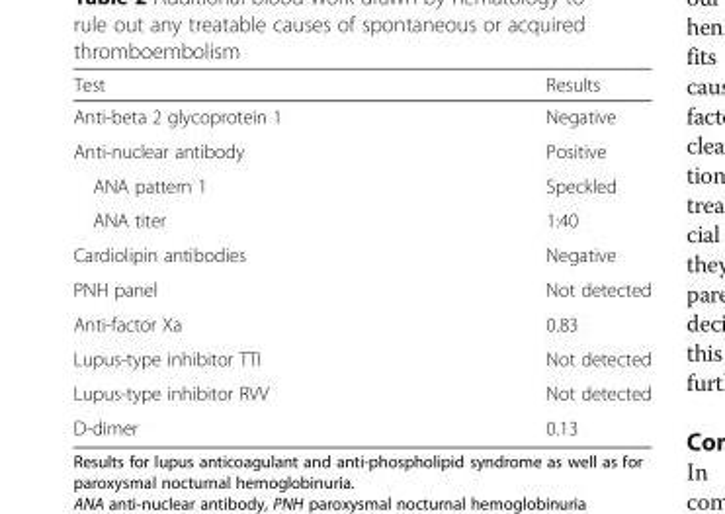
<table><thead><tr><td>Test</td><td>Results</td></tr></thead><tbody><tr><td>Anti-beta 2 glycoprotein 1</td><td>Negative</td></tr><tr><td>Anti-nuclear antibody</td><td>Positive</td></tr><tr><td>ANA pattern 1</td><td>Speckled</td></tr><tr><td>ANA titer</td><td>1:40</td></tr><tr><td>Cardiolipin antibodies</td><td>Negative</td></tr><tr><td>PNH panel</td><td>Not detected</td></tr><tr><td>Anti-factor Xa</td><td>0.83</td></tr><tr><td>Lupus-type inhibitor TTI</td><td>Not detected</td></tr><tr><td>Lupus-type inhibitor RVV</td><td>Not detected</td></tr><tr><td>D-dimer</td><td>0.13</td></tr></tbody></table>